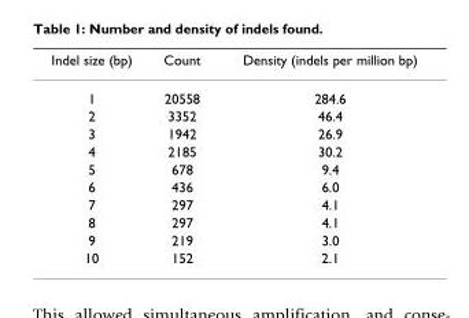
<table><thead><tr><td>Indel size (bp)</td><td>Count</td><td>Density (indels per million bp)</td></tr></thead><tbody><tr><td>1</td><td>20558</td><td>284.6</td></tr><tr><td>2</td><td>3352</td><td>46.4</td></tr><tr><td>3</td><td>1942</td><td>26.9</td></tr><tr><td>4</td><td>2185</td><td>30.2</td></tr><tr><td>5</td><td>678</td><td>9.4</td></tr><tr><td>6</td><td>436</td><td>6.0</td></tr><tr><td>7</td><td>297</td><td>4.1</td></tr><tr><td>8</td><td>297</td><td>4.1</td></tr><tr><td>9</td><td>219</td><td>3.0</td></tr><tr><td>10</td><td>152</td><td>2.1</td></tr></tbody></table>